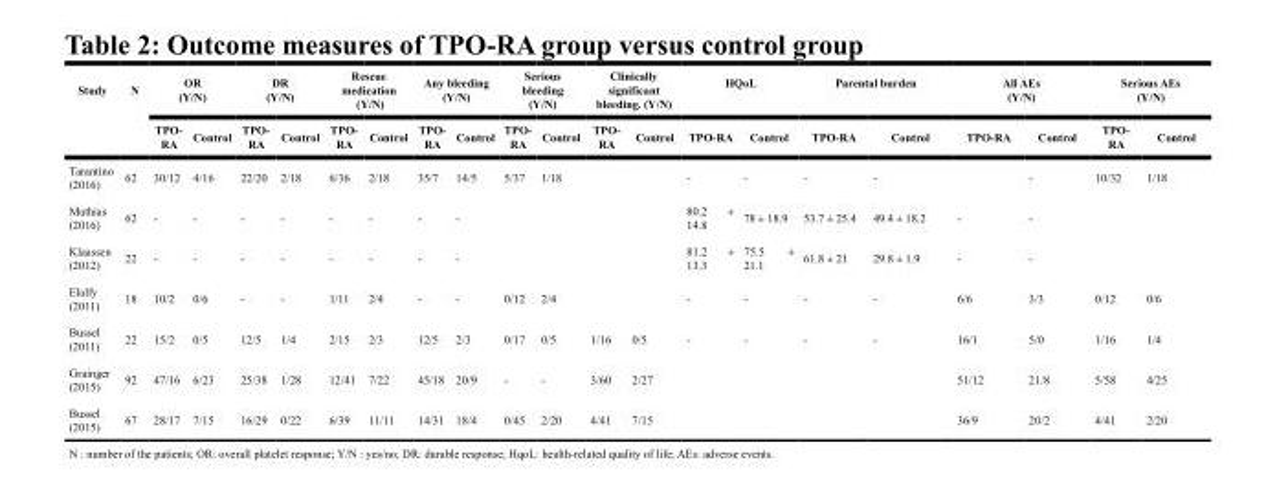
<table><thead><tr><td rowspan="2">Study</td><td rowspan="2">N</td><td colspan="2">OR (Y/N)</td><td colspan="2">DR (Y/N)</td><td colspan="2">Rescue medication (Y/N)</td><td colspan="2">Any bleeding (Y/N)</td><td colspan="2">Serious bleeding (Y/N)</td><td colspan="2">Clinically significant bleeding. (Y/N)</td><td colspan="2">HQoL</td><td colspan="2">Parental burden</td><td colspan="2">All AEs (Y/N)</td><td colspan="2">Serious AEs (Y/N)</td></tr><tr><td>TPO- RA</td><td>Control</td><td>TPO- RA</td><td>Control</td><td>TPO- RA</td><td>Control</td><td>TPO- RA</td><td>Control</td><td>TPO- RA</td><td>Control</td><td>TPO- RA</td><td>Control</td><td>TPO-RA</td><td>Control</td><td>TPO-RA</td><td>Control</td><td>TPO-RA</td><td>Control</td><td>TPO- RA</td><td>Control</td></tr></thead><tbody><tr><td>Tarantino (2016)</td><td>62</td><td>30/12</td><td>4/16</td><td>22/20</td><td>2/18</td><td>6/36</td><td>2/18</td><td>35/7</td><td>14/5</td><td>5/37</td><td>1/18</td><td></td><td></td><td>-</td><td>-</td><td>-</td><td>-</td><td></td><td>-</td><td>10/32</td><td>1/18</td></tr><tr><td>Mathias (2016)</td><td>62</td><td>-</td><td>-</td><td>-</td><td>-</td><td>-</td><td>-</td><td>-</td><td>-</td><td></td><td></td><td></td><td></td><td>80.2 ± 14.8</td><td>78 ± 18.9</td><td>53.7 ± 25.4</td><td>49.4 ± 18.2</td><td>-</td><td>-</td><td></td><td></td></tr><tr><td>Klaassen (2012)</td><td>22</td><td>-</td><td>-</td><td>-</td><td>-</td><td>-</td><td>-</td><td>-</td><td>-</td><td></td><td></td><td></td><td></td><td>81.2 ± 13.3</td><td>75.5 ± 21.1</td><td>61.8 ± 21</td><td>29.8 ± 1.9</td><td>-</td><td>-</td><td></td><td></td></tr><tr><td>Elalfy (2011)</td><td>18</td><td>10/2</td><td>0/6</td><td>-</td><td>-</td><td>1/11</td><td>2/4</td><td>-</td><td>-</td><td>0/12</td><td>2/4</td><td></td><td></td><td>-</td><td>-</td><td>-</td><td>-</td><td>6/6</td><td>3/3</td><td>0/12</td><td>0/6</td></tr><tr><td>Bussel (2011)</td><td>22</td><td>15/2</td><td>0/5</td><td>12/5</td><td>1/4</td><td>2/15</td><td>2/3</td><td>12/5</td><td>2/3</td><td>0/17</td><td>0/5</td><td>1/16</td><td>0/5</td><td>-</td><td>-</td><td>-</td><td>-</td><td>16/1</td><td>5/0</td><td>1/16</td><td>1/4</td></tr><tr><td>Grainger (2015)</td><td>92</td><td>47/16</td><td>6/23</td><td>25/38</td><td>1/28</td><td>12/41</td><td>7/22</td><td>45/18</td><td>20/9</td><td>-</td><td>-</td><td>3/60</td><td>2/27</td><td></td><td></td><td></td><td></td><td>51/12</td><td>21/8</td><td>5/58</td><td>4/25</td></tr><tr><td>Bussel (2015)</td><td>67</td><td>28/17</td><td>7/15</td><td>16/29</td><td>0/22</td><td>6/39</td><td>11/11</td><td>14/31</td><td>18/4</td><td>0/45</td><td>2/20</td><td>4/41</td><td>7/15</td><td></td><td></td><td></td><td></td><td>36/9</td><td>20/2</td><td>4/41</td><td>2/20</td></tr></tbody></table>